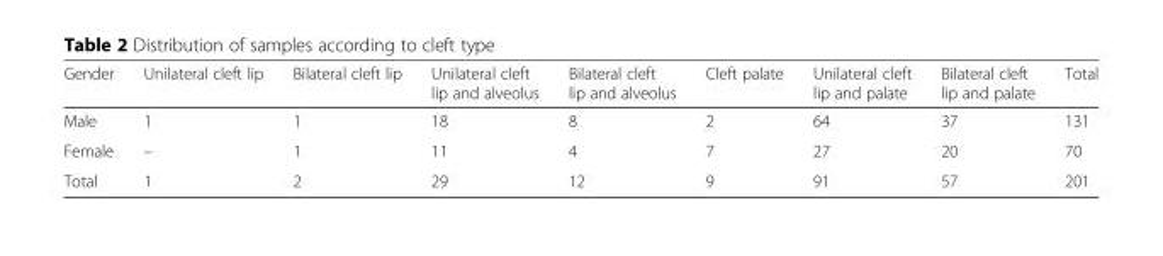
<table><thead><tr><td>Gender</td><td>Unilateral cleft lip</td><td>Bilateral cleft lip</td><td>Unilateral cleft lip and alveolus</td><td>Bilateral cleft lip and alveolus</td><td>Cleft palate</td><td>Unilateral cleft lip and palate</td><td>Bilateral cleft lip and palate</td><td>Total</td></tr></thead><tbody><tr><td>Male</td><td>1</td><td>1</td><td>18</td><td>8</td><td>2</td><td>64</td><td>37</td><td>131</td></tr><tr><td>Female</td><td>–</td><td>1</td><td>11</td><td>4</td><td>7</td><td>27</td><td>20</td><td>70</td></tr><tr><td>Total</td><td>1</td><td>2</td><td>29</td><td>12</td><td>9</td><td>91</td><td>57</td><td>201</td></tr></tbody></table>